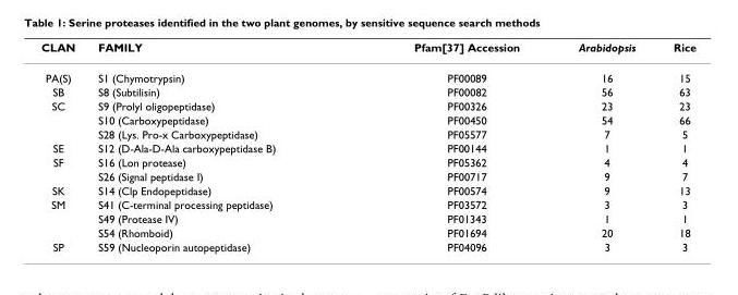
<table><thead><tr><td>CLAN</td><td>FAMILY</td><td>Pfam[37] Accession</td><td>Arabidopsis</td><td>Rice</td></tr></thead><tbody><tr><td>PA(S)</td><td>S1 (Chymotrypsin)</td><td>PF00089</td><td>16</td><td>15</td></tr><tr><td>SB</td><td>S8 (Subtilisin)</td><td>PF00082</td><td>56</td><td>63</td></tr><tr><td rowspan="3">SC</td><td>S9 (Prolyl oligopeptidase)</td><td>PF00326</td><td>23</td><td>23</td></tr><tr><td>S10 (Carboxypeptidase)</td><td>PF00450</td><td>54</td><td>66</td></tr><tr><td>S28 (Lys. Pro-x Carboxypeptidase)</td><td>PF05577</td><td>7</td><td>5</td></tr><tr><td>SE</td><td>S12 (D-Ala-D-Ala carboxypeptidase B)</td><td>PF00144</td><td>1</td><td>1</td></tr><tr><td rowspan="2">SF</td><td>S16 (Lon protease)</td><td>PF05362</td><td>4</td><td>4</td></tr><tr><td>S26 (Signal peptidase I)</td><td>PF00717</td><td>9</td><td>7</td></tr><tr><td>SK</td><td>S14 (Clp Endopeptidase)</td><td>PF00574</td><td>9</td><td>13</td></tr><tr><td rowspan="3">SM</td><td>S41 (C-terminal processing peptidase)</td><td>PF03572</td><td>3</td><td>3</td></tr><tr><td>S49 (Protease IV)</td><td>PF01343</td><td>1</td><td>1</td></tr><tr><td>S54 (Rhomboid)</td><td>PF01694</td><td>20</td><td>18</td></tr><tr><td>SP</td><td>S59 (Nucleoporin autopeptidase)</td><td>PF04096</td><td>3</td><td>3</td></tr></tbody></table>